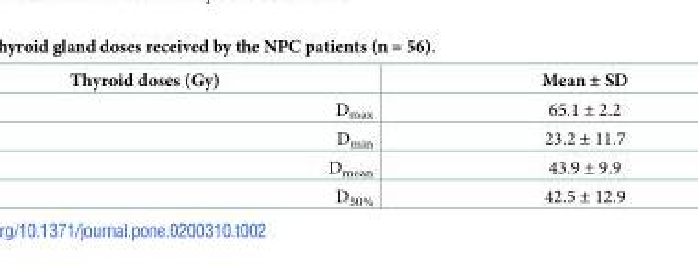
<table><thead><tr><td>Thyroid doses (Gy)</td><td>Mean ± SD</td></tr></thead><tbody><tr><td>D<sub>max</sub></td><td>65.1 ± 2.2</td></tr><tr><td>D<sub>min</sub></td><td>23.2 ± 11.7</td></tr><tr><td>D<sub>mean</sub></td><td>43.9 ± 9.9</td></tr><tr><td>D<sub>50%</sub></td><td>42.5 ± 12.9</td></tr></tbody></table>